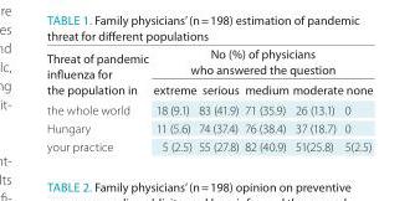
<table><thead><tr><td rowspan="2">threat of pandemic influenza for the population in</td><td colspan="5">No (%) of physicians who answered the question</td></tr><tr><td>extreme</td><td>serious</td><td>medium</td><td>moderate</td><td>none</td></tr></thead><tbody><tr><td>the whole world</td><td>18 (9.1)</td><td>83 (41.9)</td><td>71 (35.9)</td><td>26 (13.1)</td><td>0</td></tr><tr><td>Hungary</td><td>11 (5.6)</td><td>74 (37.4)</td><td>76 (38.4)</td><td>37 (18.7)</td><td>0</td></tr><tr><td>your practice</td><td>5 (2.5)</td><td>55 (27.8)</td><td>82 (40.9)</td><td>51(25.8)</td><td>5(2.5)</td></tr></tbody></table>